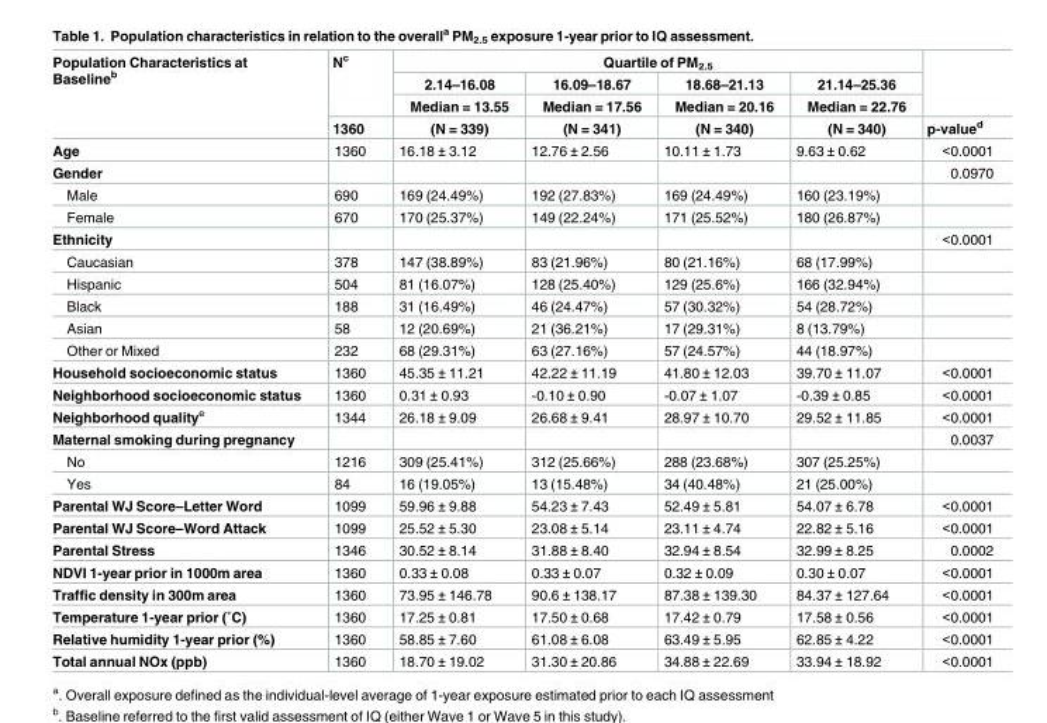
<table><thead><tr><td rowspan="4">Population Characteristics at Baseline<sup>b</sup></td><td rowspan="4">N<sup>c</sup> 1360</td><td colspan="4">Quartile of PM<sub>2.5</sub></td><td rowspan="4">p-value<sup>d</sup></td></tr><tr><td rowspan="3">2.14–16.08 Median = 13.55 (N = 339)</td><td rowspan="3">16.09–18.67 Median = 17.56 (N = 341)</td><td rowspan="3">18.68–21.13 Median = 20.16 (N = 340)</td><td rowspan="3">21.14–25.36 Median = 22.76 (N = 340)</td></tr><tr></tr><tr></tr></thead><tbody><tr><td>Age</td><td>1360</td><td>16.18 ± 3.12</td><td>12.76 ± 2.56</td><td>10.11 ± 1.73</td><td>9.63 ± 0.62</td><td>&lt;0.0001</td></tr><tr><td>Gender</td><td></td><td></td><td></td><td></td><td></td><td>0.0970</td></tr><tr><td>Male</td><td>690</td><td>169 (24.49%)</td><td>192 (27.83%)</td><td>169 (24.49%)</td><td>160 (23.19%)</td><td></td></tr><tr><td>Female</td><td>670</td><td>170 (25.37%)</td><td>149 (22.24%)</td><td>171 (25.52%)</td><td>180 (26.87%)</td><td></td></tr><tr><td>Ethnicity</td><td></td><td></td><td></td><td></td><td></td><td>&lt;0.0001</td></tr><tr><td>Caucasian</td><td>378</td><td>147 (38.89%)</td><td>83 (21.96%)</td><td>80 (21.16%)</td><td>68 (17.99%)</td><td></td></tr><tr><td>Hispanic</td><td>504</td><td>81 (16.07%)</td><td>128 (25.40%)</td><td>129 (25.6%)</td><td>166 (32.94%)</td><td></td></tr><tr><td>Black</td><td>188</td><td>31 (16.49%)</td><td>46 (24.47%)</td><td>57 (30.32%)</td><td>54 (28.72%)</td><td></td></tr><tr><td>Asian</td><td>58</td><td>12 (20.69%)</td><td>21 (36.21%)</td><td>17 (29.31%)</td><td>8 (13.79%)</td><td></td></tr><tr><td>Other or Mixed</td><td>232</td><td>68 (29.31%)</td><td>63 (27.16%)</td><td>57 (24.57%)</td><td>44 (18.97%)</td><td></td></tr><tr><td>Household socioeconomic status</td><td>1360</td><td>45.35 ± 11.21</td><td>42.22 ± 11.19</td><td>41.80 ± 12.03</td><td>39.70 ± 11.07</td><td>&lt;0.0001</td></tr><tr><td>Neighborhood socioeconomic status</td><td>1360</td><td>0.31 ± 0.93</td><td>-0.10 ± 0.90</td><td>-0.07 ± 1.07</td><td>-0.39 ± 0.85</td><td>&lt;0.0001</td></tr><tr><td>Neighborhood quality<sup>e</sup></td><td>1344</td><td>26.18 ± 9.09</td><td>26.68 ± 9.41</td><td>28.97 ± 10.70</td><td>29.52 ± 11.85</td><td>&lt;0.0001</td></tr><tr><td>Maternal smoking during pregnancy</td><td></td><td></td><td></td><td></td><td></td><td>0.0037</td></tr><tr><td>No</td><td>1216</td><td>309 (25.41%)</td><td>312 (25.66%)</td><td>288 (23.68%)</td><td>307 (25.25%)</td><td></td></tr><tr><td>Yes</td><td>84</td><td>16 (19.05%)</td><td>13 (15.48%)</td><td>34 (40.48%)</td><td>21 (25.00%)</td><td></td></tr><tr><td>Parental WJ Score–Letter Word</td><td>1099</td><td>59.96 ± 9.88</td><td>54.23 ± 7.43</td><td>52.49 ± 5.81</td><td>54.07 ± 6.78</td><td>&lt;0.0001</td></tr><tr><td>Parental WJ Score–Word Attack</td><td>1099</td><td>25.52 ± 5.30</td><td>23.08 ± 5.14</td><td>23.11 ± 4.74</td><td>22.82 ± 5.16</td><td>&lt;0.0001</td></tr><tr><td>Parental Stress</td><td>1346</td><td>30.52 ± 8.14</td><td>31.88 ± 8.40</td><td>32.94 ± 8.54</td><td>32.99 ± 8.25</td><td>0.0002</td></tr><tr><td>NDVI 1-year prior in 1000m area</td><td>1360</td><td>0.33 ± 0.08</td><td>0.33 ± 0.07</td><td>0.32 ± 0.09</td><td>0.30 ± 0.07</td><td>&lt;0.0001</td></tr><tr><td>Traffic density in 300m area</td><td>1360</td><td>73.95 ± 146.78</td><td>90.6 ± 138.17</td><td>87.38 ± 139.30</td><td>84.37 ± 127.64</td><td>&lt;0.0001</td></tr><tr><td>Temperature 1-year prior (˚C)</td><td>1360</td><td>17.25 ± 0.81</td><td>17.50 ± 0.68</td><td>17.42 ± 0.79</td><td>17.58 ± 0.56</td><td>&lt;0.0001</td></tr><tr><td>Relative humidity 1-year prior (%)</td><td>1360</td><td>58.85 ± 7.60</td><td>61.08 ± 6.08</td><td>63.49 ± 5.95</td><td>62.85 ± 4.22</td><td>&lt;0.0001</td></tr><tr><td>Total annual NOx (ppb)</td><td>1360</td><td>18.70 ± 19.02</td><td>31.30 ± 20.86</td><td>34.88 ± 22.69</td><td>33.94 ± 18.92</td><td>&lt;0.0001</td></tr></tbody></table>